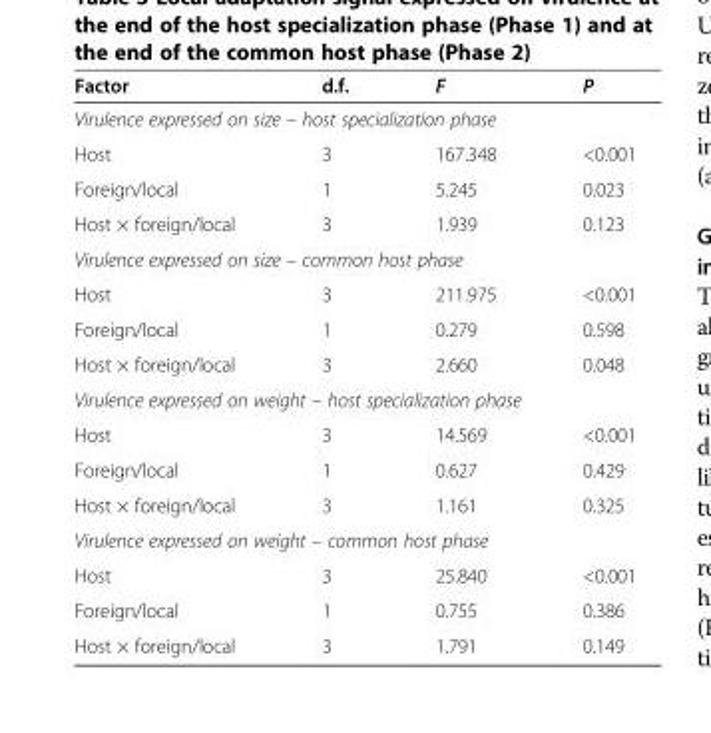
<table><thead><tr><td>Factor</td><td>d.f.</td><td>F</td><td>P</td></tr></thead><tbody><tr><td colspan="4">Virulence expressed on size – host specialization phase</td></tr><tr><td>Host</td><td>3</td><td>167.348</td><td>&lt;0.001</td></tr><tr><td>Foreign/local</td><td>1</td><td>5.245</td><td>0.023</td></tr><tr><td>Host × foreign/local</td><td>3</td><td>1.939</td><td>0.123</td></tr><tr><td colspan="4">Virulence expressed on size – common host phase</td></tr><tr><td>Host</td><td>3</td><td>211.975</td><td>&lt;0.001</td></tr><tr><td>Foreign/local</td><td>1</td><td>0.279</td><td>0.598</td></tr><tr><td>Host × foreign/local</td><td>3</td><td>2.660</td><td>0.048</td></tr><tr><td colspan="4">Virulence expressed on weight – host specialization phase</td></tr><tr><td>Host</td><td>3</td><td>14.569</td><td>&lt;0.001</td></tr><tr><td>Foreign/local</td><td>1</td><td>0.627</td><td>0.429</td></tr><tr><td>Host × foreign/local</td><td>3</td><td>1.161</td><td>0.325</td></tr><tr><td colspan="4">Virulence expressed on weight – common host phase</td></tr><tr><td>Host</td><td>3</td><td>25.840</td><td>&lt;0.001</td></tr><tr><td>Foreign/local</td><td>1</td><td>0.755</td><td>0.386</td></tr><tr><td>Host × foreign/local</td><td>3</td><td>1.791</td><td>0.149</td></tr></tbody></table>